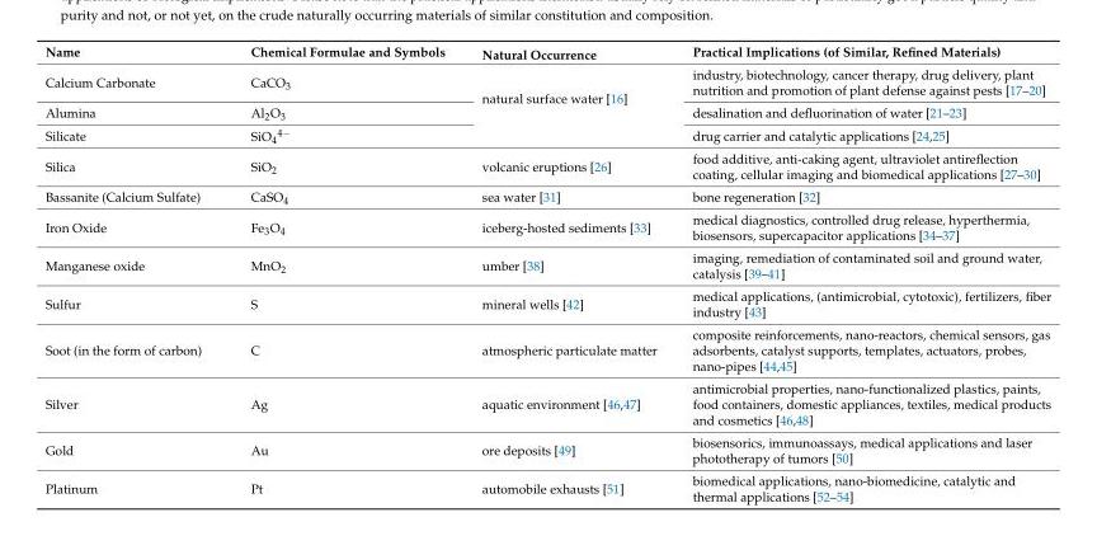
<table><thead><tr><td>Name</td><td>Chemical Formulae and Symbols</td><td>Natural Occurrence</td><td>Practical Implications (of Similar, Refined Materials)</td></tr></thead><tbody><tr><td>Calcium Carbonate</td><td>CaCO<sub>3</sub></td><td rowspan="3">natural surface water [16]</td><td>industry, biotechnology, cancer therapy, drug delivery, plant nutrition and promotion of plant defense against pests [17–20]</td></tr><tr><td>Alumina</td><td>Al<sub>2</sub>O<sub>3</sub></td><td>desalination and defluorination of water [21–23]</td></tr><tr><td>Silicate</td><td>SiO<sub>4</sub><sup>4−</sup></td><td>drug carrier and catalytic applications [24,25]</td></tr><tr><td>Silica</td><td>SiO<sub>2</sub></td><td>volcanic eruptions [26]</td><td>food additive, anti-caking agent, ultraviolet antireflection coating, cellular imaging and biomedical applications [27–30]</td></tr><tr><td>Bassanite (Calcium Sulfate)</td><td>CaSO<sub>4</sub></td><td>sea water [31]</td><td>bone regeneration [32]</td></tr><tr><td>Iron Oxide</td><td>Fe<sub>3</sub>O<sub>4</sub></td><td>iceberg-hosted sediments [33]</td><td>medical diagnostics, controlled drug release, hyperthermia, biosensors, supercapacitor applications [34–37]</td></tr><tr><td>Manganese oxide</td><td>MnO<sub>2</sub></td><td>umber [38]</td><td>imaging, remediation of contaminated soil and ground water, catalysis [39–41]</td></tr><tr><td>Sulfur</td><td>S</td><td>mineral wells [42]</td><td>medical applications, (antimicrobial, cytotoxic), fertilizers, fiber industry [43]</td></tr><tr><td>Soot (in the form of carbon)</td><td>C</td><td>atmospheric particulate matter</td><td>composite reinforcements, nano-reactors, chemical sensors, gas adsorbents, catalyst supports, templates, actuators, probes, nano-pipes [44,45]</td></tr><tr><td>Silver</td><td>Ag</td><td>aquatic environment [46,47]</td><td>antimicrobial properties, nano-functionalized plastics, paints, food containers, domestic appliances, textiles, medical products and cosmetics [46,48]</td></tr><tr><td>Gold</td><td>Au</td><td>ore deposits [49]</td><td>biosensorics, immunoassays, medical applications and laser phototherapy of tumors [50]</td></tr><tr><td>Platinum</td><td>Pt</td><td>automobile exhausts [51]</td><td>biomedical applications, nano-biomedicine, catalytic and thermal applications [52–54]</td></tr></tbody></table>